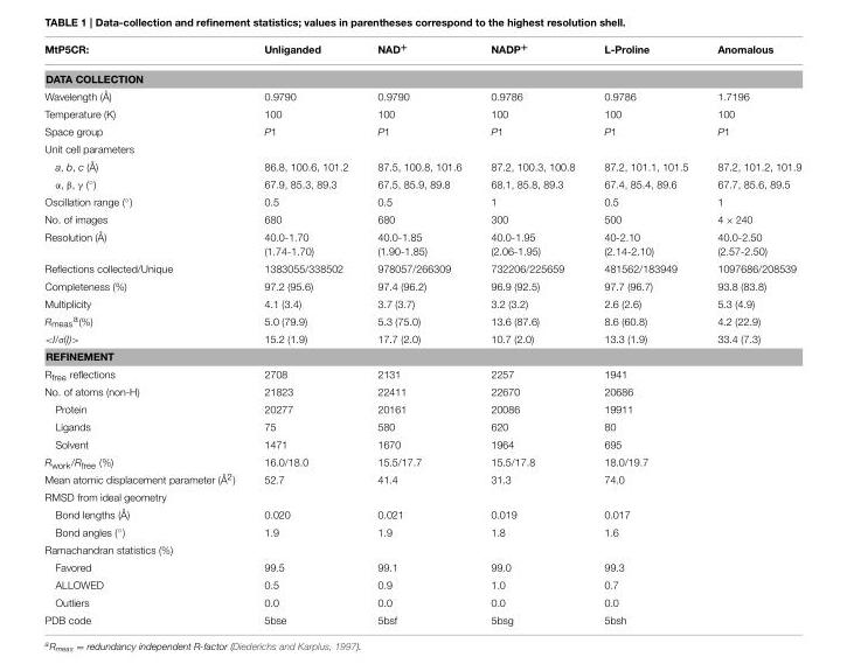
<table><thead><tr><td>MtP5CR:</td><td>Unliganded</td><td>NAD<sup>+</sup></td><td>NADP<sup>+</sup></td><td>L-Proline</td><td>Anomalous</td></tr></thead><tbody><tr><td colspan="6">DATA COLLECTION</td></tr><tr><td>Wavelength (Å)</td><td>0.9790</td><td>0.9790</td><td>0.9786</td><td>0.9786</td><td>1.7196</td></tr><tr><td>Temperature (K)</td><td>100</td><td>100</td><td>100</td><td>100</td><td>100</td></tr><tr><td>Space group</td><td>P1</td><td>P1</td><td>P1</td><td>P1</td><td>P1</td></tr><tr><td colspan="6">Unit cell parameters</td></tr><tr><td>a, b, c (Å)</td><td>86.8, 100.6, 101.2</td><td>87.5, 100.8, 101.6</td><td>87.2, 100.3, 100.8</td><td>87.2, 101.1, 101.5</td><td>87.2, 101.2, 101.9</td></tr><tr><td>α, β, γ (◦)</td><td>67.9, 85.3, 89.3</td><td>67.5, 85.9, 89.8</td><td>68.1, 85.8, 89.3</td><td>67.4, 85.4, 89.6</td><td>67.7, 85.6, 89.5</td></tr><tr><td>Oscillation range (◦)</td><td>0.5</td><td>0.5</td><td>1</td><td>0.5</td><td>1</td></tr><tr><td>No. of images</td><td>680</td><td>680</td><td>300</td><td>500</td><td>4 × 240</td></tr><tr><td>Resolution (Å)</td><td>40.0-1.70 (1.74-1.70)</td><td>40.0-1.85 (1.90-1.85)</td><td>40.0-1.95 (2.06-1.95)</td><td>40-2.10 (2.14-2.10)</td><td>40.0-2.50 (2.57-2.50)</td></tr><tr><td>Reflections collected/Unique</td><td>1383055/338502</td><td>978057/266309</td><td>732206/225659</td><td>481562/183949</td><td>1097686/208539</td></tr><tr><td>Completeness (%)</td><td>97.2 (95.6)</td><td>97.4 (96.2)</td><td>96.9 (92.5)</td><td>97.7 (96.7)</td><td>93.8 (83.8)</td></tr><tr><td>Multiplicity</td><td>4.1 (3.4)</td><td>3.7 (3.7)</td><td>3.2 (3.2)</td><td>2.6 (2.6)</td><td>5.3 (4.9)</td></tr><tr><td>R<sub>meas</sub><sup>a</sup>(%)</td><td>5.0 (79.9)</td><td>5.3 (75.0)</td><td>13.6 (87.6)</td><td>8.6 (60.8)</td><td>4.2 (22.9)</td></tr><tr><td>&lt;I/σ(I)&gt;</td><td>15.2 (1.9)</td><td>17.7 (2.0)</td><td>10.7 (2.0)</td><td>13.3 (1.9)</td><td>33.4 (7.3)</td></tr><tr><td colspan="6">REFINEMENT</td></tr><tr><td>R<sub>free</sub> reflections</td><td>2708</td><td>2131</td><td>2257</td><td>1941</td><td></td></tr><tr><td>No. of atoms (non-H)</td><td>21823</td><td>22411</td><td>22670</td><td>20686</td><td></td></tr><tr><td>Protein</td><td>20277</td><td>20161</td><td>20086</td><td>19911</td><td></td></tr><tr><td>Ligands</td><td>75</td><td>580</td><td>620</td><td>80</td><td></td></tr><tr><td>Solvent</td><td>1471</td><td>1670</td><td>1964</td><td>695</td><td></td></tr><tr><td>R<sub>work</sub>/R<sub>free</sub> (%)</td><td>16.0/18.0</td><td>15.5/17.7</td><td>15.5/17.8</td><td>18.0/19.7</td><td></td></tr><tr><td>Mean atomic displacement parameter (Å<sup>2</sup>)</td><td>52.7</td><td>41.4</td><td>31.3</td><td>74.0</td><td></td></tr><tr><td colspan="6">RMSD from ideal geometry</td></tr><tr><td>Bond lengths (Å)</td><td>0.020</td><td>0.021</td><td>0.019</td><td>0.017</td><td></td></tr><tr><td>Bond angles (◦)</td><td>1.9</td><td>1.9</td><td>1.8</td><td>1.6</td><td></td></tr><tr><td colspan="6">Ramachandran statistics (%)</td></tr><tr><td>Favored</td><td>99.5</td><td>99.1</td><td>99.0</td><td>99.3</td><td></td></tr><tr><td>ALLOWED</td><td>0.5</td><td>0.9</td><td>1.0</td><td>0.7</td><td></td></tr><tr><td>Outliers</td><td>0.0</td><td>0.0</td><td>0.0</td><td>0.0</td><td></td></tr><tr><td>PDB code</td><td>5bse</td><td>5bsf</td><td>5bsg</td><td>5bsh</td><td></td></tr></tbody></table>